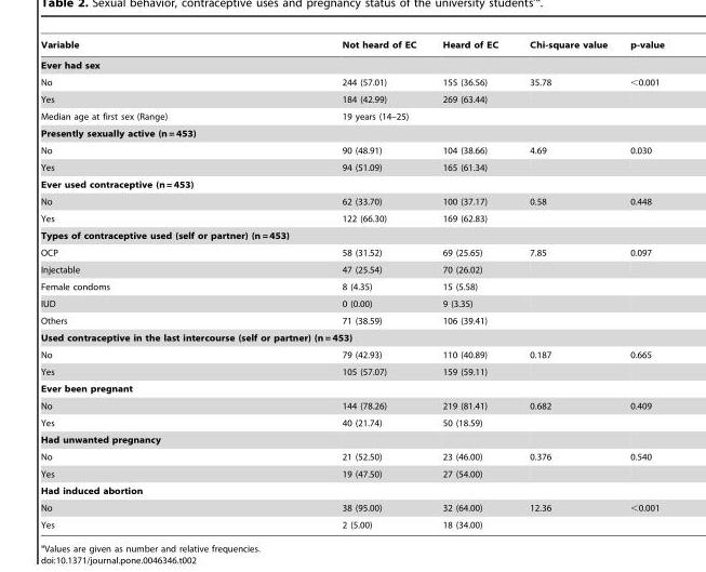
<table><thead><tr><td>Variable</td><td>Not heard of EC</td><td>Heard of EC</td><td>Chi-square value</td><td>p-value</td></tr></thead><tbody><tr><td colspan="5">Ever had sex</td></tr><tr><td>No</td><td>244 (57.01)</td><td>155 (36.56)</td><td>35.78</td><td>&lt;0.001</td></tr><tr><td>Yes</td><td>184 (42.99)</td><td>269 (63.44)</td><td></td><td></td></tr><tr><td>Median age at first sex (Range)</td><td colspan="4">19 years (14–25)</td></tr><tr><td colspan="5">Presently sexually active (n = 453)</td></tr><tr><td>No</td><td>90 (48.91)</td><td>104 (38.66)</td><td>4.69</td><td>0.030</td></tr><tr><td>Yes</td><td>94 (51.09)</td><td>165 (61.34)</td><td></td><td></td></tr><tr><td colspan="5">Ever used contraceptive (n = 453)</td></tr><tr><td>No</td><td>62 (33.70)</td><td>100 (37.17)</td><td>0.58</td><td>0.448</td></tr><tr><td>Yes</td><td>122 (66.30)</td><td>169 (62.83)</td><td></td><td></td></tr><tr><td colspan="5">Types of contraceptive used (self or partner) (n = 453)</td></tr><tr><td>OCP</td><td>58 (31.52)</td><td>69 (25.65)</td><td>7.85</td><td>0.097</td></tr><tr><td>Injectable</td><td>47 (25.54)</td><td>70 (26.02)</td><td></td><td></td></tr><tr><td>Female condoms</td><td>8 (4.35)</td><td>15 (5.58)</td><td></td><td></td></tr><tr><td>IUD</td><td>0 (0.00)</td><td>9 (3.35)</td><td></td><td></td></tr><tr><td>Others</td><td>71 (38.59)</td><td>106 (39.41)</td><td></td><td></td></tr><tr><td colspan="5">Used contraceptive in the last intercourse (self or partner) (n = 453)</td></tr><tr><td>No</td><td>79 (42.93)</td><td>110 (40.89)</td><td>0.187</td><td>0.665</td></tr><tr><td>Yes</td><td>105 (57.07)</td><td>159 (59.11)</td><td></td><td></td></tr><tr><td colspan="5">Ever been pregnant</td></tr><tr><td>No</td><td>144 (78.26)</td><td>219 (81.41)</td><td>0.682</td><td>0.409</td></tr><tr><td>Yes</td><td>40 (21.74)</td><td>50 (18.59)</td><td></td><td></td></tr><tr><td colspan="5">Had unwanted pregnancy</td></tr><tr><td>No</td><td>21 (52.50)</td><td>23 (46.00)</td><td>0.376</td><td>0.540</td></tr><tr><td>Yes</td><td>19 (47.50)</td><td>27 (54.00)</td><td></td><td></td></tr><tr><td colspan="5">Had induced abortion</td></tr><tr><td>No</td><td>38 (95.00)</td><td>32 (64.00)</td><td>12.36</td><td>&lt;0.001</td></tr><tr><td>Yes</td><td>2 (5.00)</td><td>18 (34.00)</td><td></td><td></td></tr></tbody></table>